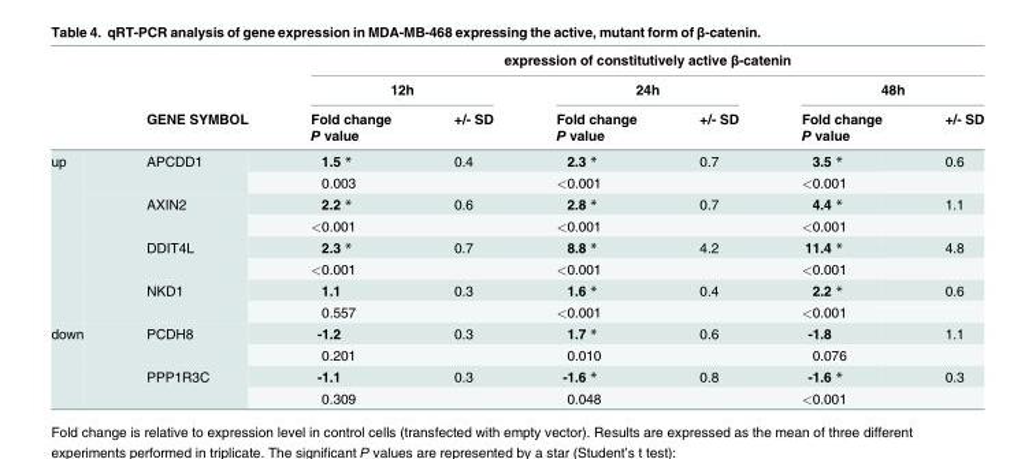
<table><thead><tr><td rowspan="4"></td><td rowspan="4">GENE SYMBOL</td><td colspan="6">expression of constitutively active β-catenin</td></tr><tr><td colspan="2">12h</td><td colspan="2">24h</td><td colspan="2">48h</td></tr><tr><td rowspan="2">Fold change P value</td><td rowspan="2">+/- SD</td><td rowspan="2">Fold change P value</td><td rowspan="2">+/- SD</td><td rowspan="2">Fold change P value</td><td rowspan="2">+/- SD</td></tr><tr></tr></thead><tbody><tr><td rowspan="8">up</td><td rowspan="2">APCDD1</td><td>1.5 *</td><td>0.4</td><td>2.3 *</td><td>0.7</td><td>3.5 *</td><td>0.6</td></tr><tr><td>0.003</td><td></td><td>&lt;0.001</td><td></td><td>&lt;0.001</td><td></td></tr><tr><td rowspan="2">AXIN2</td><td>2.2 *</td><td>0.6</td><td>2.8 *</td><td>0.7</td><td>4.4 *</td><td>1.1</td></tr><tr><td>&lt;0.001</td><td></td><td>&lt;0.001</td><td></td><td>&lt;0.001</td><td></td></tr><tr><td rowspan="2">DDIT4L</td><td>2.3 *</td><td>0.7</td><td>8.8 *</td><td>4.2</td><td>11.4 *</td><td>4.8</td></tr><tr><td>&lt;0.001</td><td></td><td>&lt;0.001</td><td></td><td>&lt;0.001</td><td></td></tr><tr><td rowspan="2">NKD1</td><td>1.1</td><td>0.3</td><td>1.6 *</td><td>0.4</td><td>2.2 *</td><td>0.6</td></tr><tr><td>0.557</td><td></td><td>&lt;0.001</td><td></td><td>&lt;0.001</td><td></td></tr><tr><td rowspan="4">down</td><td rowspan="2">PCDH8</td><td>-1.2</td><td>0.3</td><td>1.7 *</td><td>0.6</td><td>-1.8</td><td>1.1</td></tr><tr><td>0.201</td><td></td><td>0.010</td><td></td><td>0.076</td><td></td></tr><tr><td rowspan="2">PPP1R3C</td><td>-1.1</td><td>0.3</td><td>-1.6 *</td><td>0.8</td><td>-1.6 *</td><td>0.3</td></tr><tr><td>0.309</td><td></td><td>0.048</td><td></td><td>&lt;0.001</td><td></td></tr></tbody></table>